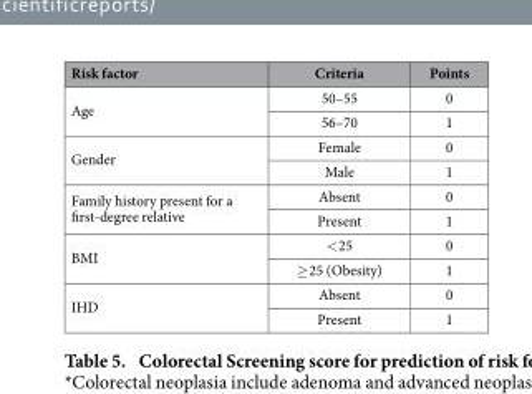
<table><thead><tr><td>Risk factor</td><td>Criteria</td><td>Points</td></tr></thead><tbody><tr><td rowspan="2">Age</td><td>50–55</td><td>0</td></tr><tr><td>56–70</td><td>1</td></tr><tr><td rowspan="2">Gender</td><td>Female</td><td>0</td></tr><tr><td>Male</td><td>1</td></tr><tr><td rowspan="2">Family history present for a first-degree relative</td><td>Absent</td><td>0</td></tr><tr><td>Present</td><td>1</td></tr><tr><td rowspan="2">BMI</td><td>&lt; 25</td><td>0</td></tr><tr><td>≥ 25 (Obesity)</td><td>1</td></tr><tr><td rowspan="2">IHD</td><td>Absent</td><td>0</td></tr><tr><td>Present</td><td>1</td></tr></tbody></table>